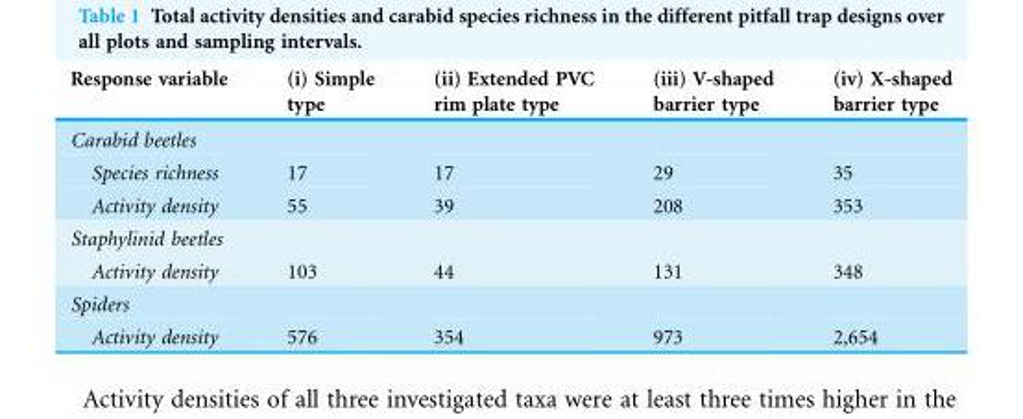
<table><thead><tr><td>Response variable</td><td>(i) Simple type</td><td>(ii) Extended PVC rim plate type</td><td>(iii) V-shaped barrier type</td><td>(iv) X-shaped barrier type</td></tr></thead><tbody><tr><td colspan="5">Carabid beetles</td></tr><tr><td>Species richness</td><td>17</td><td>17</td><td>29</td><td>35</td></tr><tr><td>Activity density</td><td>55</td><td>39</td><td>208</td><td>353</td></tr><tr><td colspan="5">Staphylinid beetles</td></tr><tr><td>Activity density</td><td>103</td><td>44</td><td>131</td><td>348</td></tr><tr><td colspan="5">Spiders</td></tr><tr><td>Activity density</td><td>576</td><td>354</td><td>973</td><td>2,654</td></tr></tbody></table>